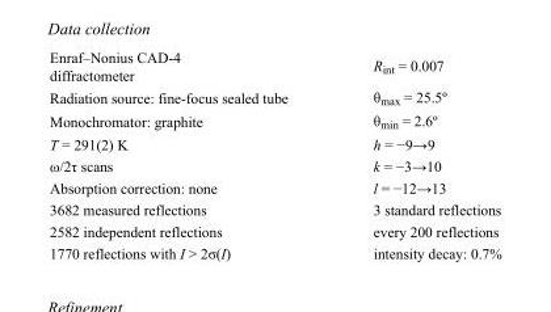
<table><tbody><tr><td>Enraf–Nonius CAD-4 diffractometer</td><td>R<sub>int</sub> = 0.007</td></tr><tr><td>Radiation source: fine-focus sealed tube</td><td>θ<sub>max</sub> = 25.5º</td></tr><tr><td>Monochromator: graphite</td><td>θ<sub>min</sub> = 2.6º</td></tr><tr><td>T = 291(2) K</td><td>h = −9→9</td></tr><tr><td>ω/2τ scans</td><td>k = −3→10</td></tr><tr><td>Absorption correction: none</td><td>l = −12→13</td></tr><tr><td>3682 measured reflections</td><td>3 standard reflections</td></tr><tr><td>2582 independent reflections</td><td>every 200 reflections</td></tr><tr><td>1770 reflections with I &gt; 2σ(I)</td><td>intensity decay: 0.7%</td></tr></tbody></table>